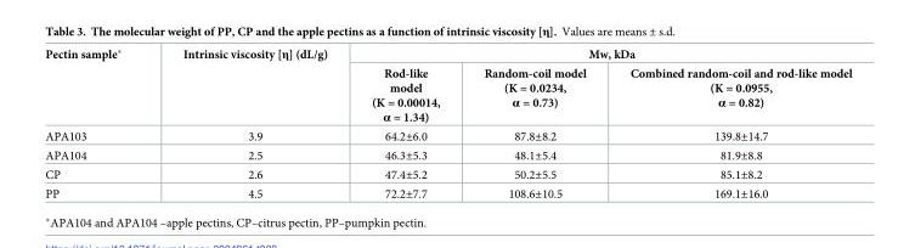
<table><thead><tr><td rowspan="2">Pectin sample*</td><td rowspan="2">Intrinsic viscosity [η] (dL/g)</td><td colspan="3">Mw, kDa</td></tr><tr><td>Rod-like model (K = 0.00014, α = 1.34)</td><td>Random-coil model (K = 0.0234, α = 0.73)</td><td>Combined random-coil and rod-like model (K = 0.0955, α = 0.82)</td></tr></thead><tbody><tr><td>APA103</td><td>3.9</td><td>64.2±6.0</td><td>87.8±8.2</td><td>139.8±14.7</td></tr><tr><td>APA104</td><td>2.5</td><td>46.3±5.3</td><td>48.1±5.4</td><td>81.9±8.8</td></tr><tr><td>CP</td><td>2.6</td><td>47.4±5.2</td><td>50.2±5.5</td><td>85.1±8.2</td></tr><tr><td>PP</td><td>4.5</td><td>72.2±7.7</td><td>108.6±10.5</td><td>169.1±16.0</td></tr></tbody></table>